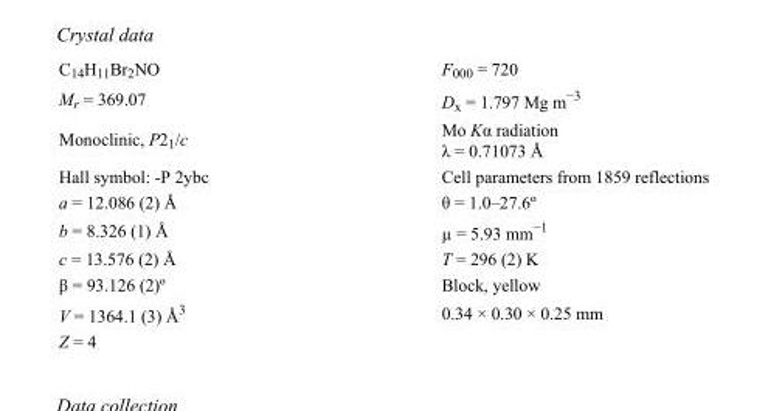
<table><tbody><tr><td>C<sub>14</sub>H<sub>11</sub>Br<sub>2</sub>NO</td><td>F<sub>000</sub> = 720</td></tr><tr><td>M<sub>r</sub> = 369.07</td><td>D<sub>x</sub> = 1.797 Mg m<sup>−3</sup></td></tr><tr><td>Monoclinic, P2<sub>1</sub>/c</td><td>Mo Kα radiation λ = 0.71073 Å</td></tr><tr><td>Hall symbol: -P 2ybc</td><td>Cell parameters from 1859 reflections</td></tr><tr><td>a = 12.086 (2) Å</td><td>θ = 1.0–27.6º</td></tr><tr><td>b = 8.326 (1) Å</td><td>µ = 5.93 mm<sup>−1</sup></td></tr><tr><td>c = 13.576 (2) Å</td><td>T = 296 (2) K</td></tr><tr><td>β = 93.126 (2)º</td><td>Block, yellow</td></tr><tr><td>V = 1364.1 (3) Å<sup>3</sup></td><td>0.34 × 0.30 × 0.25 mm</td></tr><tr><td>Z = 4</td><td></td></tr></tbody></table>